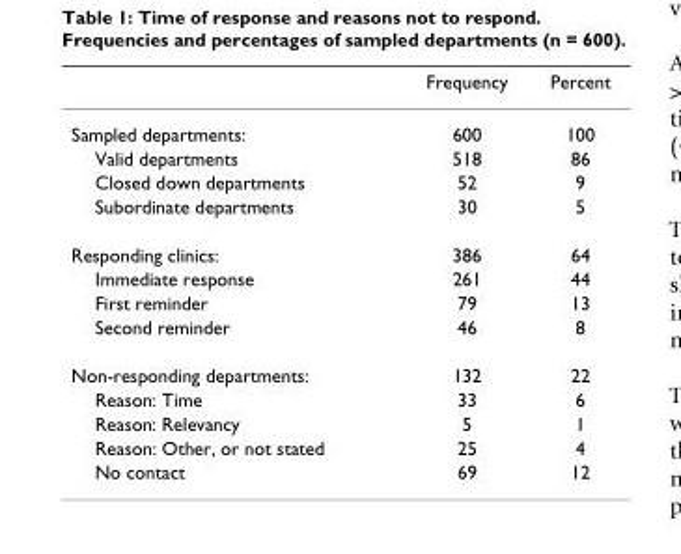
<table><thead><tr><td></td><td>Frequency</td><td>Percent</td></tr></thead><tbody><tr><td>Sampled departments:</td><td>600</td><td>100</td></tr><tr><td>Valid departments</td><td>518</td><td>86</td></tr><tr><td>Closed down departments</td><td>52</td><td>9</td></tr><tr><td>Subordinate departments</td><td>30</td><td>5</td></tr><tr><td>Responding clinics:</td><td>386</td><td>64</td></tr><tr><td>Immediate response</td><td>261</td><td>44</td></tr><tr><td>First reminder</td><td>79</td><td>13</td></tr><tr><td>Second reminder</td><td>46</td><td>8</td></tr><tr><td>Non-responding departments:</td><td>132</td><td>22</td></tr><tr><td>Reason: Time</td><td>33</td><td>6</td></tr><tr><td>Reason: Relevancy</td><td>5</td><td>1</td></tr><tr><td>Reason: Other, or not stated</td><td>25</td><td>4</td></tr><tr><td>No contact</td><td>69</td><td>12</td></tr></tbody></table>